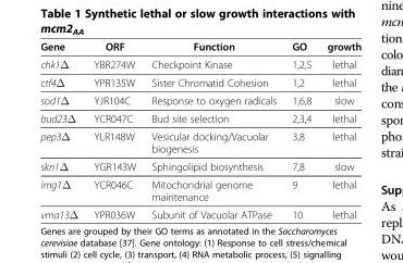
<table><thead><tr><td>Gene</td><td>ORF</td><td>Function</td><td>GO</td><td>growth</td></tr></thead><tbody><tr><td>chk1Δ</td><td>YBR274W</td><td>Checkpoint Kinase</td><td>1,2,5</td><td>lethal</td></tr><tr><td>ctf4Δ</td><td>YPR135W</td><td>Sister Chromatid Cohesion</td><td>1,2</td><td>lethal</td></tr><tr><td>sod1Δ</td><td>YJR104C</td><td>Response to oxygen radicals</td><td>1,6,8</td><td>slow</td></tr><tr><td>bud23Δ</td><td>YCR047C</td><td>Bud site selection</td><td>2,3,4</td><td>lethal</td></tr><tr><td>pep3Δ</td><td>YLR148W</td><td>Vesicular docking/Vacuolar biogenesis</td><td>3,8</td><td>lethal</td></tr><tr><td>skn1Δ</td><td>YGR143W</td><td>Sphingolipid biosynthesis</td><td>7,8</td><td>slow</td></tr><tr><td>img1Δ</td><td>YCR046C</td><td>Mitochondrial genome maintenance</td><td>9</td><td>lethal</td></tr><tr><td>vma13Δ</td><td>YPR036W</td><td>Subunit of Vacuolar ATPase</td><td>10</td><td>lethal</td></tr></tbody></table>